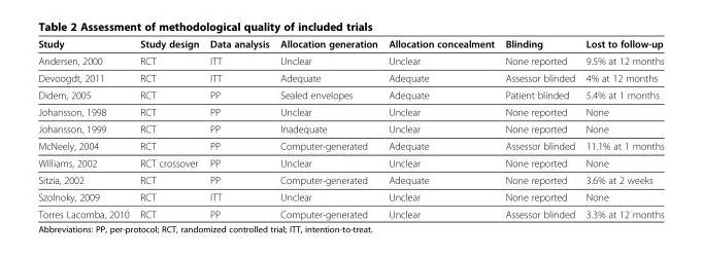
<table><thead><tr><td>Study</td><td>Study design</td><td>Data analysis</td><td>Allocation generation</td><td>Allocation concealment</td><td>Blinding</td><td>Lost to follow-up</td></tr></thead><tbody><tr><td>Andersen, 2000</td><td>RCT</td><td>ITT</td><td>Unclear</td><td>Unclear</td><td>None reported</td><td>9.5% at 12 months</td></tr><tr><td>Devoogdt, 2011</td><td>RCT</td><td>ITT</td><td>Adequate</td><td>Adequate</td><td>Assessor blinded</td><td>4% at 12 months</td></tr><tr><td>Didem, 2005</td><td>RCT</td><td>PP</td><td>Sealed envelopes</td><td>Adequate</td><td>Patient blinded</td><td>5.4% at 1 months</td></tr><tr><td>Johansson, 1998</td><td>RCT</td><td>PP</td><td>Unclear</td><td>Unclear</td><td>None reported</td><td>None</td></tr><tr><td>Johansson, 1999</td><td>RCT</td><td>PP</td><td>Inadequate</td><td>Unclear</td><td>None reported</td><td>None</td></tr><tr><td>McNeely, 2004</td><td>RCT</td><td>PP</td><td>Computer-generated</td><td>Adequate</td><td>Assessor blinded</td><td>11.1% at 1 months</td></tr><tr><td>Williams, 2002</td><td>RCT crossover</td><td>PP</td><td>Unclear</td><td>Unclear</td><td>None reported</td><td>None</td></tr><tr><td>Sitzia, 2002</td><td>RCT</td><td>PP</td><td>Computer-generated</td><td>Adequate</td><td>None reported</td><td>3.6% at 2 weeks</td></tr><tr><td>Szolnoky, 2009</td><td>RCT</td><td>ITT</td><td>Unclear</td><td>Unclear</td><td>None reported</td><td>None</td></tr><tr><td>Torres Lacomba, 2010</td><td>RCT</td><td>PP</td><td>Computer-generated</td><td>Unclear</td><td>Assessor blinded</td><td>3.3% at 12 months</td></tr></tbody></table>